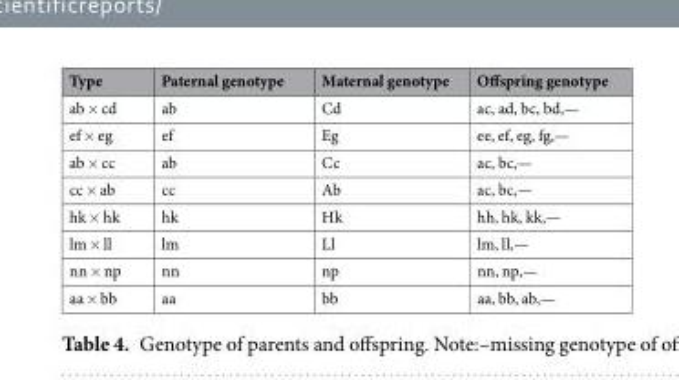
<table><thead><tr><td>Type</td><td>Paternal genotype</td><td>Maternal genotype</td><td>Offspring genotype</td></tr></thead><tbody><tr><td>ab × cd</td><td>ab</td><td>Cd</td><td>ac, ad, bc, bd,—</td></tr><tr><td>ef × eg</td><td>ef</td><td>Eg</td><td>ee, ef, eg, fg,—</td></tr><tr><td>ab × cc</td><td>ab</td><td>Cc</td><td>ac, bc,—</td></tr><tr><td>cc × ab</td><td>cc</td><td>Ab</td><td>ac, bc,—</td></tr><tr><td>hk × hk</td><td>hk</td><td>Hk</td><td>hh, hk, kk,—</td></tr><tr><td>lm × ll</td><td>lm</td><td>Ll</td><td>lm, ll,—</td></tr><tr><td>nn × np</td><td>nn</td><td>np</td><td>nn, np,—</td></tr><tr><td>aa × bb</td><td>aa</td><td>bb</td><td>aa, bb, ab,—</td></tr></tbody></table>